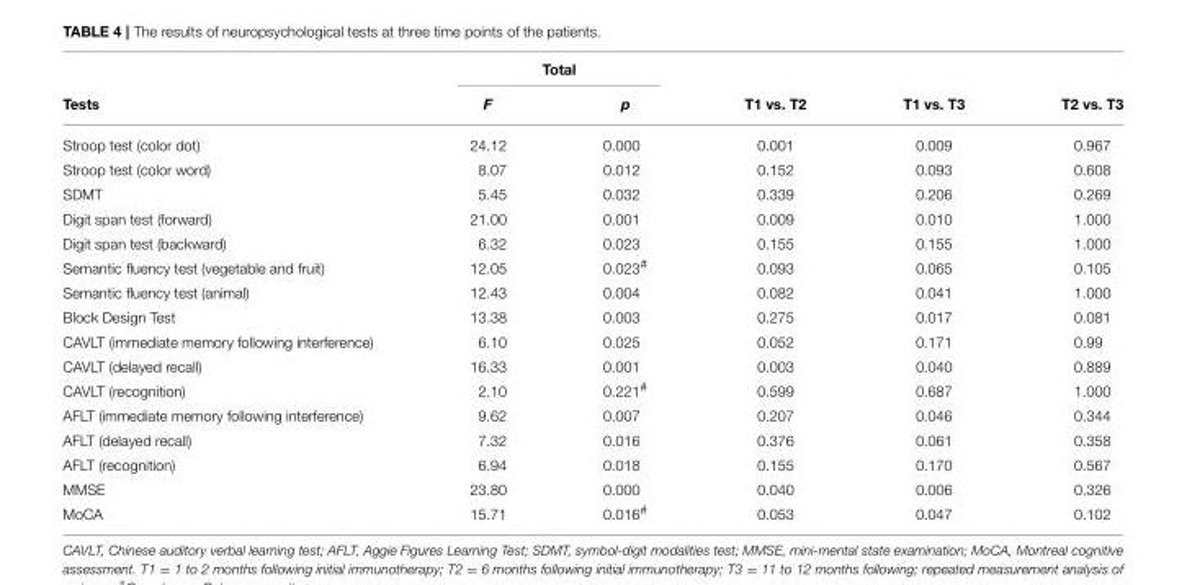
<table><thead><tr><td rowspan="2">Tests</td><td colspan="2">Total</td><td rowspan="2">T1 vs. T2</td><td rowspan="2">T1 vs. T3</td><td rowspan="2">T2 vs. T3</td></tr><tr><td>F</td><td>p</td></tr></thead><tbody><tr><td>Stroop test (color dot)</td><td>24.12</td><td>0.000</td><td>0.001</td><td>0.009</td><td>0.967</td></tr><tr><td>Stroop test (color word)</td><td>8.07</td><td>0.012</td><td>0.152</td><td>0.093</td><td>0.608</td></tr><tr><td>SDMT</td><td>5.45</td><td>0.032</td><td>0.339</td><td>0.206</td><td>0.269</td></tr><tr><td>Digit span test (forward)</td><td>21.00</td><td>0.001</td><td>0.009</td><td>0.010</td><td>1.000</td></tr><tr><td>Digit span test (backward)</td><td>6.32</td><td>0.023</td><td>0.155</td><td>0.155</td><td>1.000</td></tr><tr><td>Semantic fluency test (vegetable and fruit)</td><td>12.05</td><td>0.023<sup>#</sup></td><td>0.093</td><td>0.065</td><td>0.105</td></tr><tr><td>Semantic fluency test (animal)</td><td>12.43</td><td>0.004</td><td>0.082</td><td>0.041</td><td>1.000</td></tr><tr><td>Block Design Test</td><td>13.38</td><td>0.003</td><td>0.275</td><td>0.017</td><td>0.081</td></tr><tr><td>CAVLT (immediate memory following interference)</td><td>6.10</td><td>0.025</td><td>0.052</td><td>0.171</td><td>0.99</td></tr><tr><td>CAVLT (delayed recall)</td><td>16.33</td><td>0.001</td><td>0.003</td><td>0.040</td><td>0.889</td></tr><tr><td>CAVLT (recognition)</td><td>2.10</td><td>0.221<sup>#</sup></td><td>0.599</td><td>0.687</td><td>1.000</td></tr><tr><td>AFLT (immediate memory following interference)</td><td>9.62</td><td>0.007</td><td>0.207</td><td>0.046</td><td>0.344</td></tr><tr><td>AFLT (delayed recall)</td><td>7.32</td><td>0.016</td><td>0.376</td><td>0.061</td><td>0.358</td></tr><tr><td>AFLT (recognition)</td><td>6.94</td><td>0.018</td><td>0.155</td><td>0.170</td><td>0.567</td></tr><tr><td>MMSE</td><td>23.80</td><td>0.000</td><td>0.040</td><td>0.006</td><td>0.326</td></tr><tr><td>MoCA</td><td>15.71</td><td>0.016<sup>#</sup></td><td>0.053</td><td>0.047</td><td>0.102</td></tr></tbody></table>